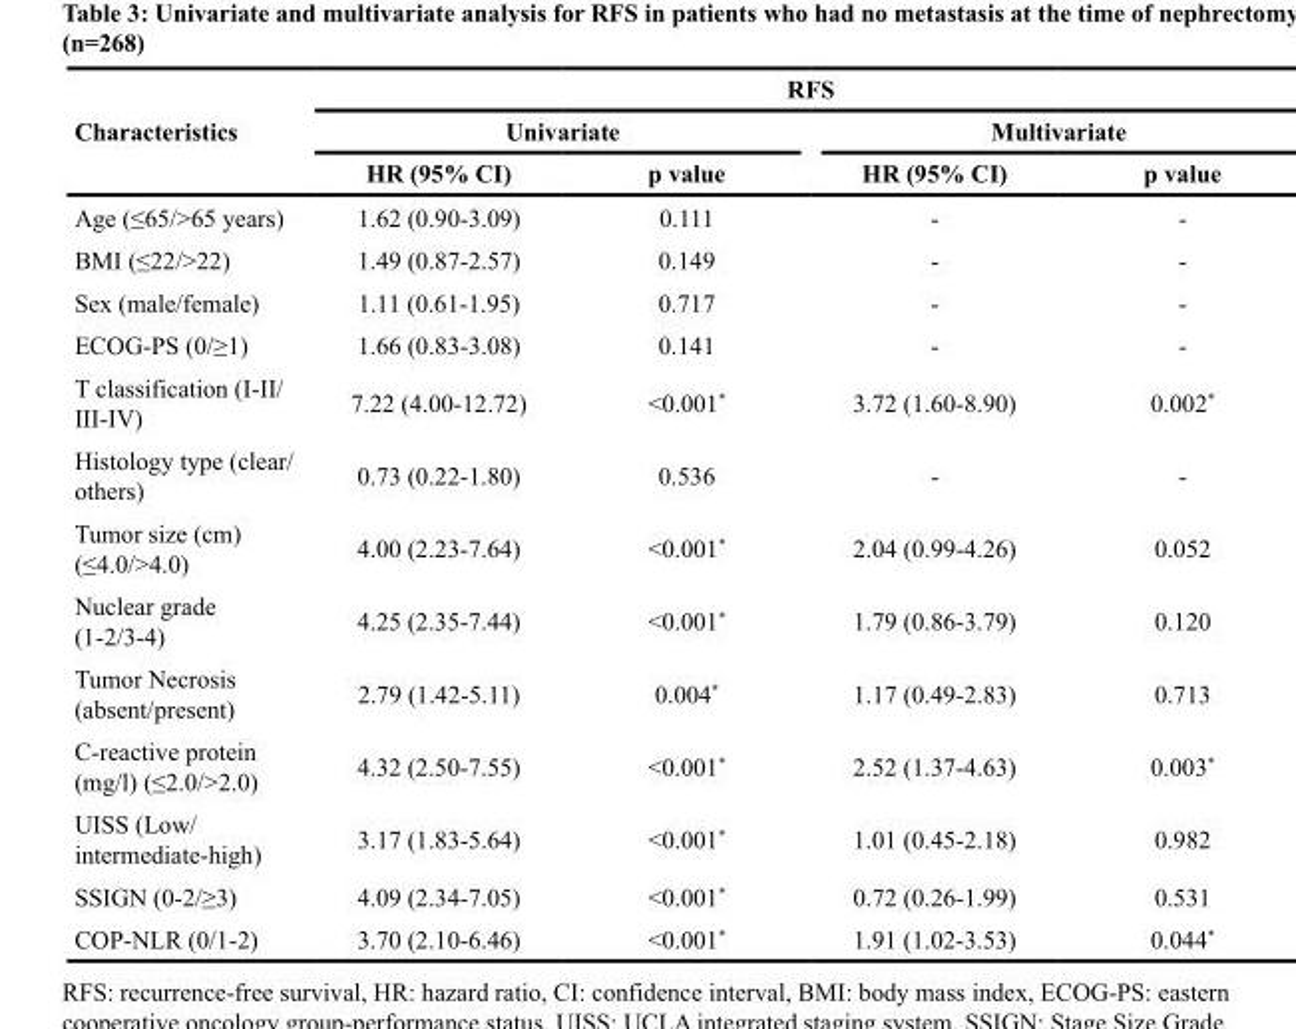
<table><thead><tr><td rowspan="3">Characteristics</td><td colspan="4">RFS</td></tr><tr><td colspan="2">Univariate</td><td colspan="2">Multivariate</td></tr><tr><td>HR (95% CI)</td><td>p value</td><td>HR (95% CI)</td><td>p value</td></tr></thead><tbody><tr><td>Age (≤65/&gt;65 years)</td><td>1.62 (0.90-3.09)</td><td>0.111</td><td>-</td><td>-</td></tr><tr><td>BMI (≤22/&gt;22)</td><td>1.49 (0.87-2.57)</td><td>0.149</td><td>-</td><td>-</td></tr><tr><td>Sex (male/female)</td><td>1.11 (0.61-1.95)</td><td>0.717</td><td>-</td><td>-</td></tr><tr><td>ECOG-PS (0/≥1)</td><td>1.66 (0.83-3.08)</td><td>0.141</td><td>-</td><td>-</td></tr><tr><td>T classification (I-II/ III-IV)</td><td>7.22 (4.00-12.72)</td><td>&lt;0.001*</td><td>3.72 (1.60-8.90)</td><td>0.002*</td></tr><tr><td>Histology type (clear/ others)</td><td>0.73 (0.22-1.80)</td><td>0.536</td><td>-</td><td>-</td></tr><tr><td>Tumor size (cm) (≤4.0/&gt;4.0)</td><td>4.00 (2.23-7.64)</td><td>&lt;0.001*</td><td>2.04 (0.99-4.26)</td><td>0.052</td></tr><tr><td>Nuclear grade (1-2/3-4)</td><td>4.25 (2.35-7.44)</td><td>&lt;0.001*</td><td>1.79 (0.86-3.79)</td><td>0.120</td></tr><tr><td>Tumor Necrosis (absent/present)</td><td>2.79 (1.42-5.11)</td><td>0.004*</td><td>1.17 (0.49-2.83)</td><td>0.713</td></tr><tr><td>C-reactive protein (mg/l) (≤2.0/&gt;2.0)</td><td>4.32 (2.50-7.55)</td><td>&lt;0.001*</td><td>2.52 (1.37-4.63)</td><td>0.003*</td></tr><tr><td>UISS (Low/ intermediate-high)</td><td>3.17 (1.83-5.64)</td><td>&lt;0.001*</td><td>1.01 (0.45-2.18)</td><td>0.982</td></tr><tr><td>SSIGN (0-2/≥3)</td><td>4.09 (2.34-7.05)</td><td>&lt;0.001*</td><td>0.72 (0.26-1.99)</td><td>0.531</td></tr><tr><td>COP-NLR (0/1-2)</td><td>3.70 (2.10-6.46)</td><td>&lt;0.001*</td><td>1.91 (1.02-3.53)</td><td>0.044*</td></tr></tbody></table>